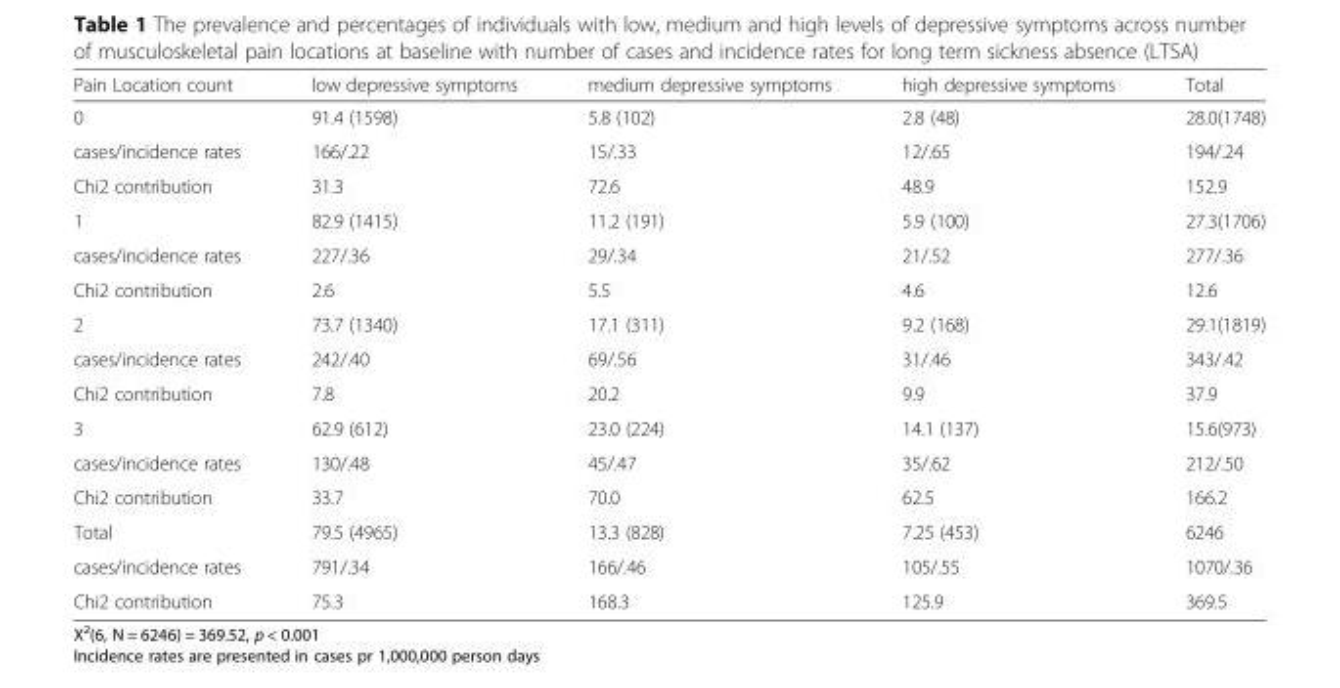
<table><thead><tr><td>Pain Location count</td><td>low depressive symptoms</td><td>medium depressive symptoms</td><td>high depressive symptoms</td><td>Total</td></tr></thead><tbody><tr><td>0</td><td>91.4 (1598)</td><td>5.8 (102)</td><td>2.8 (48)</td><td>28.0(1748)</td></tr><tr><td>cases/incidence rates</td><td>166/.22</td><td>15/.33</td><td>12/.65</td><td>194/.24</td></tr><tr><td>Chi2 contribution</td><td>31.3</td><td>72.6</td><td>48.9</td><td>152.9</td></tr><tr><td>1</td><td>82.9 (1415)</td><td>11.2 (191)</td><td>5.9 (100)</td><td>27.3(1706)</td></tr><tr><td>cases/incidence rates</td><td>227/.36</td><td>29/.34</td><td>21/.52</td><td>277/.36</td></tr><tr><td>Chi2 contribution</td><td>2.6</td><td>5.5</td><td>4.6</td><td>12.6</td></tr><tr><td>2</td><td>73.7 (1340)</td><td>17.1 (311)</td><td>9.2 (168)</td><td>29.1(1819)</td></tr><tr><td>cases/incidence rates</td><td>242/.40</td><td>69/.56</td><td>31/.46</td><td>343/.42</td></tr><tr><td>Chi2 contribution</td><td>7.8</td><td>20.2</td><td>9.9</td><td>37.9</td></tr><tr><td>3</td><td>62.9 (612)</td><td>23.0 (224)</td><td>14.1 (137)</td><td>15.6(973)</td></tr><tr><td>cases/incidence rates</td><td>130/.48</td><td>45/.47</td><td>35/.62</td><td>212/.50</td></tr><tr><td>Chi2 contribution</td><td>33.7</td><td>70.0</td><td>62.5</td><td>166.2</td></tr><tr><td>Total</td><td>79.5 (4965)</td><td>13.3 (828)</td><td>7.25 (453)</td><td>6246</td></tr><tr><td>cases/incidence rates</td><td>791/.34</td><td>166/.46</td><td>105/.55</td><td>1070/.36</td></tr><tr><td>Chi2 contribution</td><td>75.3</td><td>168.3</td><td>125.9</td><td>369.5</td></tr></tbody></table>